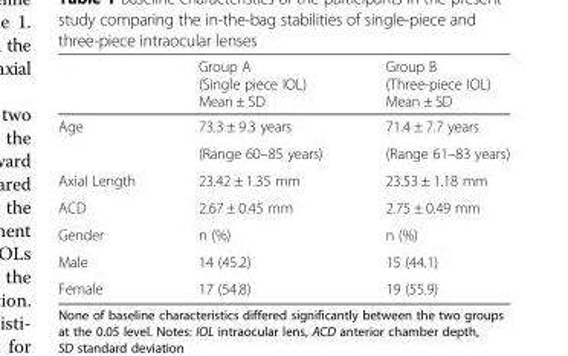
<table><thead><tr><td></td><td>Group A (Single piece IOL) Mean ± SD</td><td>Group B (Three-piece IOL) Mean ± SD</td></tr></thead><tbody><tr><td rowspan="2">Age</td><td>73.3 ± 9.3 years</td><td>71.4 ± 7.7 years</td></tr><tr><td>(Range 60–85 years)</td><td>(Range 61–83 years)</td></tr><tr><td>Axial Length</td><td>23.42 ± 1.35 mm</td><td>23.53 ± 1.18 mm</td></tr><tr><td>ACD</td><td>2.67 ± 0.45 mm</td><td>2.75 ± 0.49 mm</td></tr><tr><td>Gender</td><td>n (%)</td><td>n (%)</td></tr><tr><td>Male</td><td>14 (45.2)</td><td>15 (44.1)</td></tr><tr><td>Female</td><td>17 (54.8)</td><td>19 (55.9)</td></tr></tbody></table>